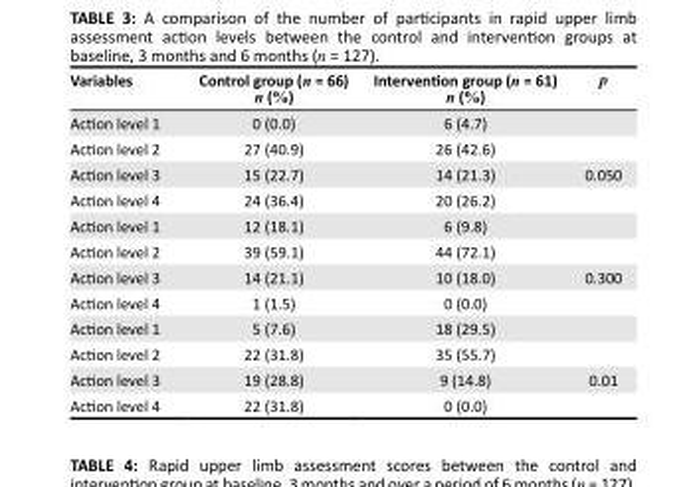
<table><thead><tr><td>Variables</td><td>Control group (n = 66) n (%)</td><td>Intervention group (n = 61) n (%)</td><td>p</td></tr></thead><tbody><tr><td>Action level 1</td><td>0 (0.0)</td><td>6 (4.7)</td><td></td></tr><tr><td>Action level 2</td><td>27 (40.9)</td><td>26 (42.6)</td><td></td></tr><tr><td>Action level 3</td><td>15 (22.7)</td><td>14 (21.3)</td><td>0.050</td></tr><tr><td>Action level 4</td><td>24 (36.4)</td><td>20 (26.2)</td><td></td></tr><tr><td>Action level 1</td><td>12 (18.1)</td><td>6 (9.8)</td><td></td></tr><tr><td>Action level 2</td><td>39 (59.1)</td><td>44 (72.1)</td><td></td></tr><tr><td>Action level 3</td><td>14 (21.1)</td><td>10 (18.0)</td><td>0.300</td></tr><tr><td>Action level 4</td><td>1 (1.5)</td><td>0 (0.0)</td><td></td></tr><tr><td>Action level 1</td><td>5 (7.6)</td><td>18 (29.5)</td><td></td></tr><tr><td>Action level 2</td><td>22 (31.8)</td><td>35 (55.7)</td><td></td></tr><tr><td>Action level 3</td><td>19 (28.8)</td><td>9 (14.8)</td><td>0.01</td></tr><tr><td>Action level 4</td><td>22 (31.8)</td><td>0 (0.0)</td><td></td></tr></tbody></table>